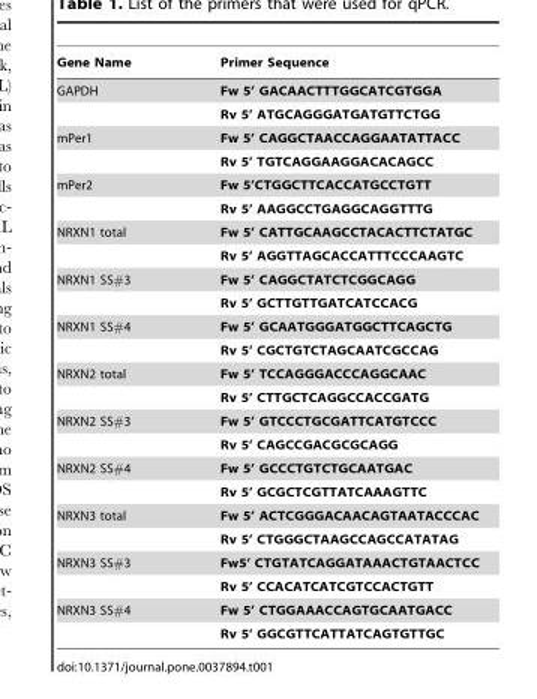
<table><thead><tr><td>Gene Name</td><td>Primer Sequence</td></tr></thead><tbody><tr><td rowspan="2">GAPDH</td><td>Fw 5’ GACAACTTTGGCATCGTGGA</td></tr><tr><td>Rv 5’ ATGCAGGGATGATGTTCTGG</td></tr><tr><td rowspan="2">mPer1</td><td>Fw 5’ CAGGCTAACCAGGAATATTACC</td></tr><tr><td>Rv 5’ TGTCAGGAAGGACACAGCC</td></tr><tr><td rowspan="2">mPer2</td><td>Fw 5’CTGGCTTCACCATGCCTGTT</td></tr><tr><td>Rv 5’ AAGGCCTGAGGCAGGTTTG</td></tr><tr><td rowspan="2">NRXN1 total</td><td>Fw 5’ CATTGCAAGCCTACACTTCTATGC</td></tr><tr><td>Rv 5’ AGGTTAGCACCATTTCCCAAGTC</td></tr><tr><td rowspan="2">NRXN1 SS#3</td><td>Fw 5’ CAGGCTATCTCGGCAGG</td></tr><tr><td>Rv 5’ GCTTGTTGATCATCCACG</td></tr><tr><td rowspan="2">NRXN1 SS#4</td><td>Fw 5’ GCAATGGGATGGCTTCAGCTG</td></tr><tr><td>Rv 5’ CGCTGTCTAGCAATCGCCAG</td></tr><tr><td rowspan="2">NRXN2 total</td><td>Fw 5’ TCCAGGGACCCAGGCAAC</td></tr><tr><td>Rv 5’ CTTGCTCAGGCCACCGATG</td></tr><tr><td rowspan="2">NRXN2 SS#3</td><td>Fw 5’ GTCCCTGCGATTCATGTCCC</td></tr><tr><td>Rv 5’ CAGCCGACGCGCAGG</td></tr><tr><td rowspan="2">NRXN2 SS#4</td><td>Fw 5’ GCCCTGTCTGCAATGAC</td></tr><tr><td>Rv 5’ GCGCTCGTTATCAAAGTTC</td></tr><tr><td rowspan="2">NRXN3 total</td><td>Fw 5’ ACTCGGGACAACAGTAATACCCAC</td></tr><tr><td>Rv 5’ CTGGGCTAAGCCAGCCATATAG</td></tr><tr><td rowspan="2">NRXN3 SS#3</td><td>Fw5’ CTGTATCAGGATAAACTGTAACTCC</td></tr><tr><td>Rv 5’ CCACATCATCGTCCACTGTT</td></tr><tr><td rowspan="2">NRXN3 SS#4</td><td>Fw 5’ CTGGAAACCAGTGCAATGACC</td></tr><tr><td>Rv 5’ GGCGTTCATTATCAGTGTTGC</td></tr></tbody></table>